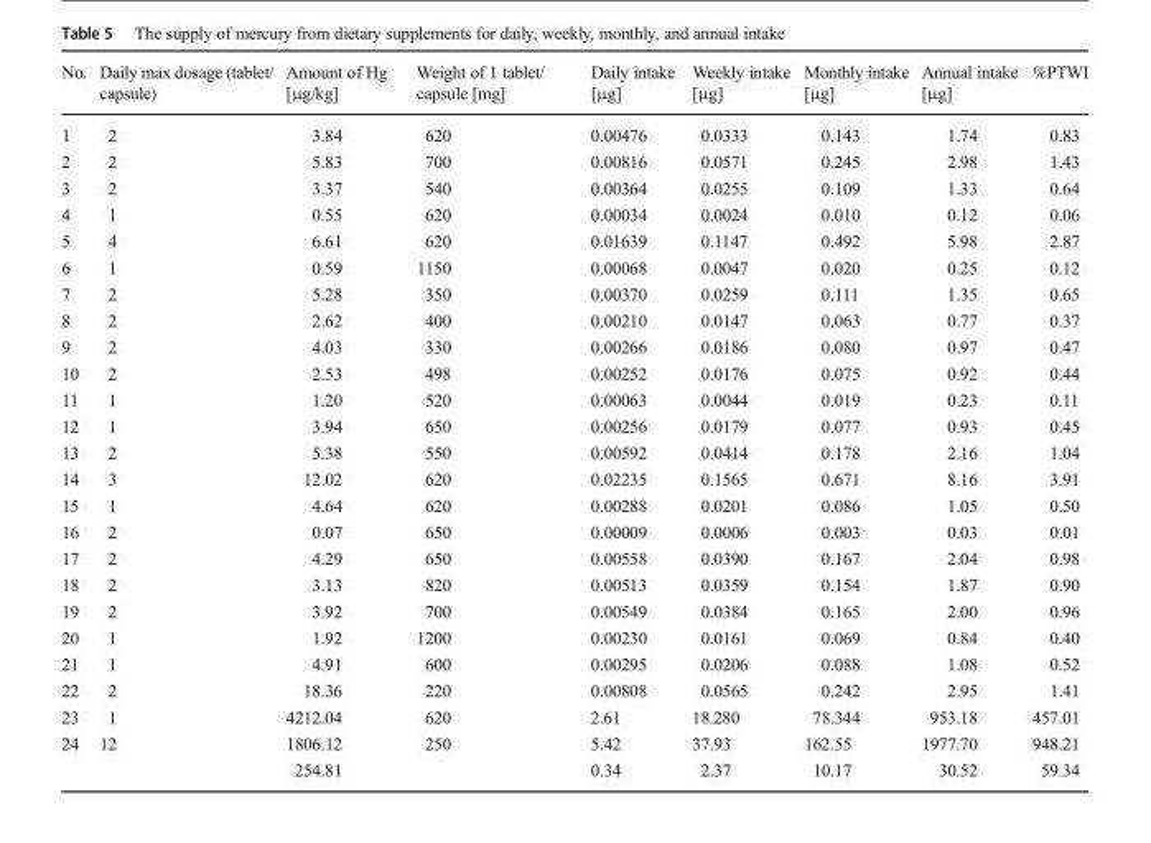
<table><thead><tr><td>No.</td><td>Daily max dosage (tablet/ capsule)</td><td>Amount of Hg [μg/kg]</td><td>Weight of 1 tablet/ capsule [mg]</td><td>Daily intake [μg]</td><td>Weekly intake [μg]</td><td>Monthly intake [μg]</td><td>Annual intake [μg]</td><td>%PTWI</td></tr></thead><tbody><tr><td>1</td><td>2</td><td>3.84</td><td>620</td><td>0.00476</td><td>0.0333</td><td>0.143</td><td>1.74</td><td>0.83</td></tr><tr><td>2</td><td>2</td><td>5.83</td><td>700</td><td>0.00816</td><td>0.0571</td><td>0.245</td><td>2.98</td><td>1.43</td></tr><tr><td>3</td><td>2</td><td>3.37</td><td>540</td><td>0.00364</td><td>0.0255</td><td>0.109</td><td>1.33</td><td>0.64</td></tr><tr><td>4</td><td>1</td><td>0.55</td><td>620</td><td>0.00034</td><td>0.0024</td><td>0.010</td><td>0.12</td><td>0.06</td></tr><tr><td>5</td><td>4</td><td>6.61</td><td>620</td><td>0.01639</td><td>0.1147</td><td>0.492</td><td>5.98</td><td>2.87</td></tr><tr><td>6</td><td>1</td><td>0.59</td><td>1150</td><td>0.00068</td><td>0.0047</td><td>0.020</td><td>0.25</td><td>0.12</td></tr><tr><td>7</td><td>2</td><td>5.28</td><td>350</td><td>0.00370</td><td>0.0259</td><td>0.111</td><td>1.35</td><td>0.65</td></tr><tr><td>8</td><td>2</td><td>2.62</td><td>400</td><td>0.00210</td><td>0.0147</td><td>0.063</td><td>0.77</td><td>0.37</td></tr><tr><td>9</td><td>2</td><td>4.03</td><td>330</td><td>0.00266</td><td>0.0186</td><td>0.080</td><td>0.97</td><td>0.47</td></tr><tr><td>10</td><td>2</td><td>2.53</td><td>498</td><td>0.00252</td><td>0.0176</td><td>0.075</td><td>0.92</td><td>0.44</td></tr><tr><td>11</td><td>1</td><td>1.20</td><td>520</td><td>0.00063</td><td>0.0044</td><td>0.019</td><td>0.23</td><td>0.11</td></tr><tr><td>12</td><td>1</td><td>3.94</td><td>650</td><td>0.00256</td><td>0.0179</td><td>0.077</td><td>0.93</td><td>0.45</td></tr><tr><td>13</td><td>2</td><td>5.38</td><td>550</td><td>0.00592</td><td>0.0414</td><td>0.178</td><td>2.16</td><td>1.04</td></tr><tr><td>14</td><td>3</td><td>12.02</td><td>620</td><td>0.02235</td><td>0.1565</td><td>0.671</td><td>8.16</td><td>3.91</td></tr><tr><td>15</td><td>1</td><td>4.64</td><td>620</td><td>0.00288</td><td>0.0201</td><td>0.086</td><td>1.05</td><td>0.50</td></tr><tr><td>16</td><td>2</td><td>0.07</td><td>650</td><td>0.00009</td><td>0.0006</td><td>0.003</td><td>0.03</td><td>0.01</td></tr><tr><td>17</td><td>2</td><td>4.29</td><td>650</td><td>0.00558</td><td>0.0390</td><td>0.167</td><td>2.04</td><td>0.98</td></tr><tr><td>18</td><td>2</td><td>3.13</td><td>820</td><td>0.00513</td><td>0.0359</td><td>0.154</td><td>1.87</td><td>0.90</td></tr><tr><td>19</td><td>2</td><td>3.92</td><td>700</td><td>0.00549</td><td>0.0384</td><td>0.165</td><td>2.00</td><td>0.96</td></tr><tr><td>20</td><td>1</td><td>1.92</td><td>1200</td><td>0.00230</td><td>0.0161</td><td>0.069</td><td>0.84</td><td>0.40</td></tr><tr><td>21</td><td>1</td><td>4.91</td><td>600</td><td>0.00295</td><td>0.0206</td><td>0.088</td><td>1.08</td><td>0.52</td></tr><tr><td>22</td><td>2</td><td>18.36</td><td>220</td><td>0.00808</td><td>0.0565</td><td>0.242</td><td>2.95</td><td>1.41</td></tr><tr><td>23</td><td>1</td><td>4212.04</td><td>620</td><td>2.61</td><td>18.280</td><td>78.344</td><td>953.18</td><td>457.01</td></tr><tr><td rowspan="2">24</td><td>12</td><td>1806.12</td><td>250</td><td>5.42</td><td>37.93</td><td>162.55</td><td>1977.70</td><td>948.21</td></tr><tr><td></td><td>254.81</td><td></td><td>0.34</td><td>2.37</td><td>10.17</td><td>30.52</td><td>59.34</td></tr></tbody></table>